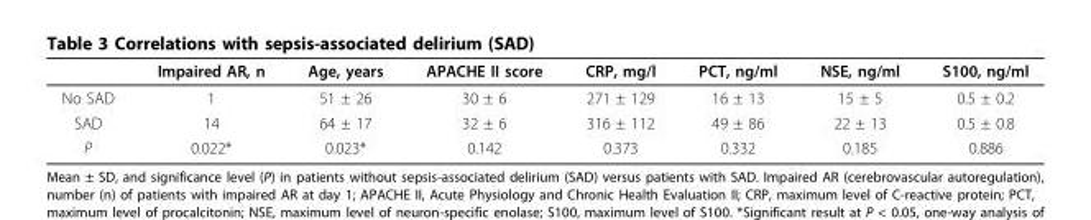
<table><thead><tr><td></td><td>Impaired AR, n</td><td>Age, years</td><td>APACHE II score</td><td>CRP, mg/l</td><td>PCT, ng/ml</td><td>NSE, ng/ml</td><td>S100, ng/ml</td></tr></thead><tbody><tr><td>No SAD</td><td>1</td><td>51 ± 26</td><td>30 ± 6</td><td>271 ± 129</td><td>16 ± 13</td><td>15 ± 5</td><td>0.5 ± 0.2</td></tr><tr><td>SAD</td><td>14</td><td>64 ± 17</td><td>32 ± 6</td><td>316 ± 112</td><td>49 ± 86</td><td>22 ± 13</td><td>0.5 ± 0.8</td></tr><tr><td>P</td><td>0.022*</td><td>0.023*</td><td>0.142</td><td>0.373</td><td>0.332</td><td>0.185</td><td>0.886</td></tr></tbody></table>